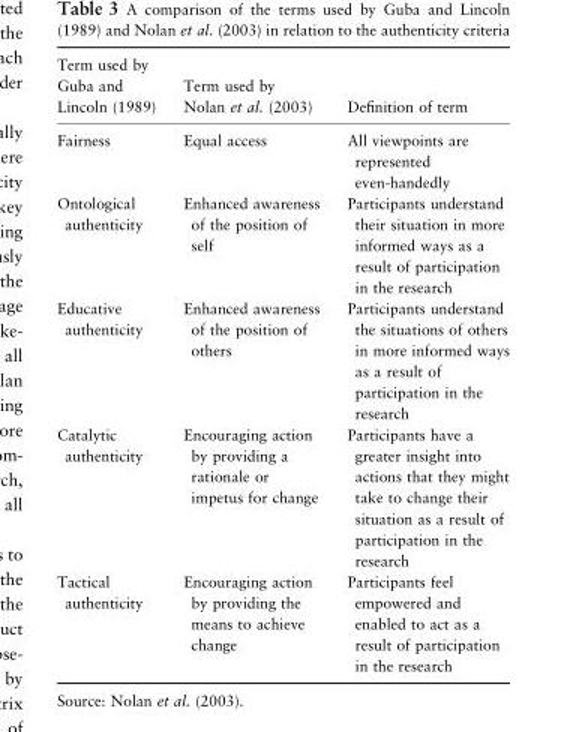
<table><thead><tr><td>Term used by Guba and Lincoln (1989)</td><td>Term used by Nolan et al. (2003)</td><td>Definition of term</td></tr></thead><tbody><tr><td>Fairness</td><td>Equal access</td><td>All viewpoints are represented even-handedly</td></tr><tr><td>Ontological authenticity</td><td>Enhanced awareness of the position of self</td><td>Participants understand their situation in more informed ways as a result of participation in the research</td></tr><tr><td>Educative authenticity</td><td>Enhanced awareness of the position of others</td><td>Participants understand the situations of others in more informed ways as a result of participation in the research</td></tr><tr><td>Catalytic authenticity</td><td>Encouraging action by providing a rationale or impetus for change</td><td>Participants have a greater insight into actions that they might take to change their situation as a result of participation in the research</td></tr><tr><td>Tactical authenticity</td><td>Encouraging action by providing the means to achieve change</td><td>Participants feel empowered and enabled to act as a result of participation in the research</td></tr></tbody></table>